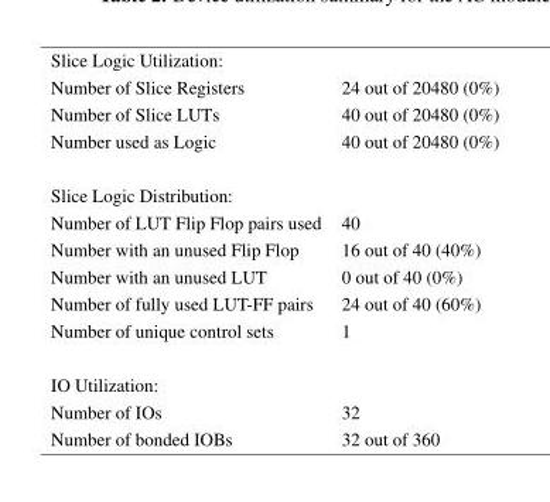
<table><tbody><tr><td colspan="2">Slice Logic Utilization:</td></tr><tr><td>Number of Slice Registers</td><td>24 out of 20480 (0%)</td></tr><tr><td>Number of Slice LUTs</td><td>40 out of 20480 (0%)</td></tr><tr><td>Number used as Logic</td><td>40 out of 20480 (0%)</td></tr><tr><td colspan="2">Slice Logic Distribution:</td></tr><tr><td>Number of LUT Flip Flop pairs used</td><td>40</td></tr><tr><td>Number with an unused Flip Flop</td><td>16 out of 40 (40%)</td></tr><tr><td>Number with an unused LUT</td><td>0 out of 40 (0%)</td></tr><tr><td>Number of fully used LUT-FF pairs</td><td>24 out of 40 (60%)</td></tr><tr><td>Number of unique control sets</td><td>1</td></tr><tr><td colspan="2">IO Utilization:</td></tr><tr><td>Number of IOs</td><td>32</td></tr><tr><td>Number of bonded IOBs</td><td>32 out of 360</td></tr></tbody></table>